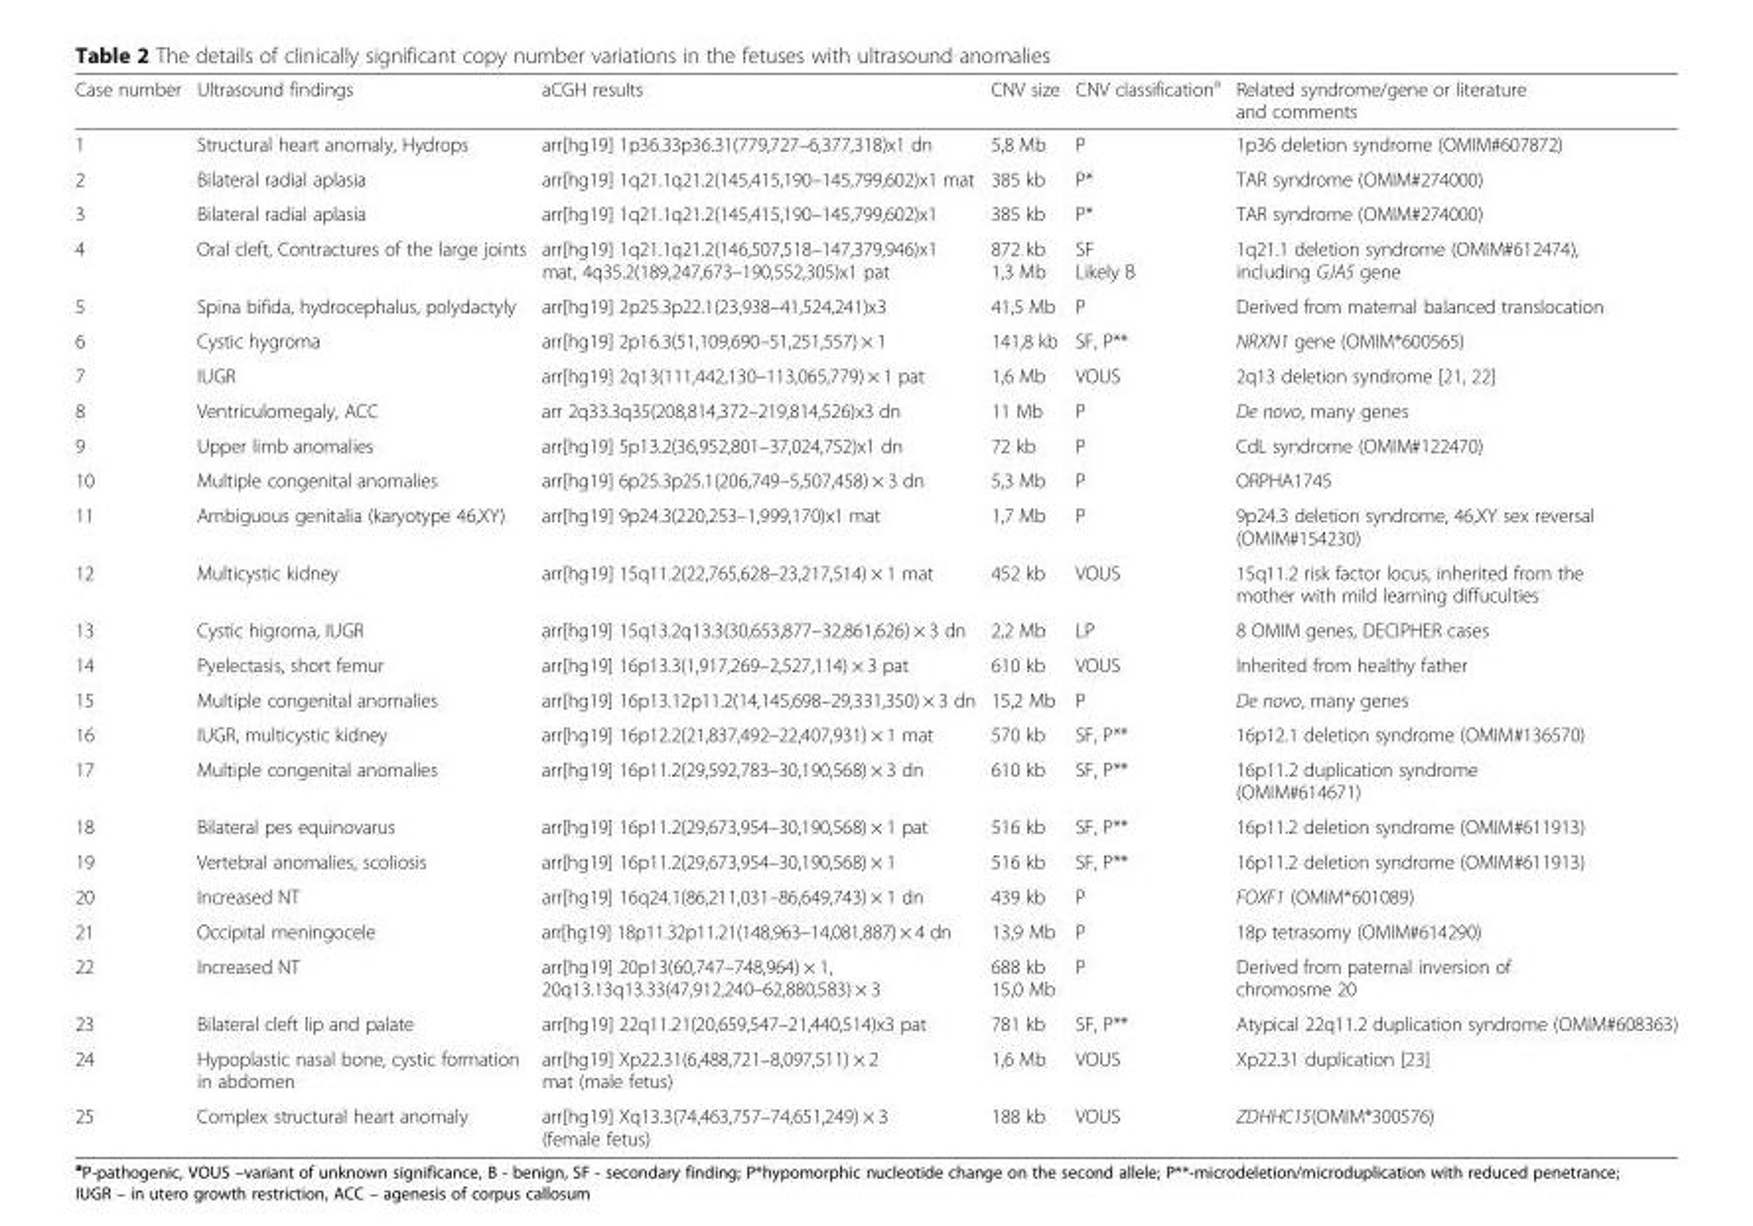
<table><thead><tr><td>Case number</td><td>Ultrasound findings</td><td>aCGH results</td><td>CNV size</td><td>CNV classification<sup>a</sup></td><td>Related syndrome/gene or literature and comments</td></tr></thead><tbody><tr><td>1</td><td>Structural heart anomaly, Hydrops</td><td>arr[hg19] 1p36.33p36.31(779,727–6,377,318)x1 dn</td><td>5,8 Mb</td><td>P</td><td>1p36 deletion syndrome (OMIM#607872)</td></tr><tr><td>2</td><td>Bilateral radial aplasia</td><td>arr[hg19] 1q21.1q21.2(145,415,190–145,799,602)x1 mat</td><td>385 kb</td><td>P*</td><td>TAR syndrome (OMIM#274000)</td></tr><tr><td>3</td><td>Bilateral radial aplasia</td><td>arr[hg19] 1q21.1q21.2(145,415,190–145,799,602)x1</td><td>385 kb</td><td>P*</td><td>TAR syndrome (OMIM#274000)</td></tr><tr><td>4</td><td>Oral cleft, Contractures of the large joints</td><td>arr[hg19] 1q21.1q21.2(146,507,518–147,379,946)x1 mat, 4q35.2(189,247,673–190,552,305)x1 pat</td><td>872 kb 1,3 Mb</td><td>SF Likely B</td><td>1q21.1 deletion syndrome (OMIM#612474), including GJA5 gene</td></tr><tr><td>5</td><td>Spina bifida, hydrocephalus, polydactyly</td><td>arr[hg19] 2p25.3p22.1(23,938–41,524,241)x3</td><td>41,5 Mb</td><td>P</td><td>Derived from maternal balanced translocation</td></tr><tr><td>6</td><td>Cystic hygroma</td><td>arr[hg19] 2p16.3(51,109,690–51,251,557) × 1</td><td>141,8 kb</td><td>SF, P**</td><td>NRXN1 gene (OMIM*600565)</td></tr><tr><td>7</td><td>IUGR</td><td>arr[hg19] 2q13(111,442,130–113,065,779) × 1 pat</td><td>1,6 Mb</td><td>VOUS</td><td>2q13 deletion syndrome [21, 22]</td></tr><tr><td>8</td><td>Ventriculomegaly, ACC</td><td>arr 2q33.3q35(208,814,372–219,814,526)x3 dn</td><td>11 Mb</td><td>P</td><td>De novo, many genes</td></tr><tr><td>9</td><td>Upper limb anomalies</td><td>arr[hg19] 5p13.2(36,952,801–37,024,752)x1 dn</td><td>72 kb</td><td>P</td><td>CdL syndrome (OMIM#122470)</td></tr><tr><td>10</td><td>Multiple congenital anomalies</td><td>arr[hg19] 6p25.3p25.1(206,749–5,507,458) × 3 dn</td><td>5,3 Mb</td><td>P</td><td>ORPHA1745</td></tr><tr><td>11</td><td>Ambiguous genitalia (karyotype 46,XY)</td><td>arr[hg19] 9p24.3(220,253–1,999,170)x1 mat</td><td>1,7 Mb</td><td>P</td><td>9p24.3 deletion syndrome, 46,XY sex reversal (OMIM#154230)</td></tr><tr><td>12</td><td>Multicystic kidney</td><td>arr[hg19] 15q11.2(22,765,628–23,217,514) × 1 mat</td><td>452 kb</td><td>VOUS</td><td>15q11.2 risk factor locus, inherited from the mother with mild learning diffuculties</td></tr><tr><td>13</td><td>Cystic higroma, IUGR</td><td>arr[hg19] 15q13.2q13.3(30,653,877–32,861,626) × 3 dn</td><td>2,2 Mb</td><td>LP</td><td>8 OMIM genes, DECIPHER cases</td></tr><tr><td>14</td><td>Pyelectasis, short femur</td><td>arr[hg19] 16p13.3(1,917,269–2,527,114) × 3 pat</td><td>610 kb</td><td>VOUS</td><td>Inherited from healthy father</td></tr><tr><td>15</td><td>Multiple congenital anomalies</td><td>arr[hg19] 16p13.12p11.2(14,145,698–29,331,350) × 3 dn</td><td>15,2 Mb</td><td>P</td><td>De novo, many genes</td></tr><tr><td>16</td><td>IUGR, multicystic kidney</td><td>arr[hg19] 16p12.2(21,837,492–22,407,931) × 1 mat</td><td>570 kb</td><td>SF, P**</td><td>16p12.1 deletion syndrome (OMIM#136570)</td></tr><tr><td>17</td><td>Multiple congenital anomalies</td><td>arr[hg19] 16p11.2(29,592,783–30,190,568) × 3 dn</td><td>610 kb</td><td>SF, P**</td><td>16p11.2 duplication syndrome (OMIM#614671)</td></tr><tr><td>18</td><td>Bilateral pes equinovarus</td><td>arr[hg19] 16p11.2(29,673,954–30,190,568) × 1 pat</td><td>516 kb</td><td>SF, P**</td><td>16p11.2 deletion syndrome (OMIM#611913)</td></tr><tr><td>19</td><td>Vertebral anomalies, scoliosis</td><td>arr[hg19] 16p11.2(29,673,954–30,190,568) × 1</td><td>516 kb</td><td>SF, P**</td><td>16p11.2 deletion syndrome (OMIM#611913)</td></tr><tr><td>20</td><td>Increased NT</td><td>arr[hg19] 16q24.1(86,211,031–86,649,743) × 1 dn</td><td>439 kb</td><td>P</td><td>FOXF1 (OMIM*601089)</td></tr><tr><td>21</td><td>Occipital meningocele</td><td>arr[hg19] 18p11.32p11.21(148,963–14,081,887) × 4 dn</td><td>13,9 Mb</td><td>P</td><td>18p tetrasomy (OMIM#614290)</td></tr><tr><td>22</td><td>Increased NT</td><td>arr[hg19] 20p13(60,747–748,964) × 1, 20q13.13q13.33(47,912,240–62,880,583) × 3</td><td>688 kb 15,0 Mb</td><td>P</td><td>Derived from paternal inversion of chromosme 20</td></tr><tr><td>23</td><td>Bilateral cleft lip and palate</td><td>arr[hg19] 22q11.21(20,659,547–21,440,514)x3 pat</td><td>781 kb</td><td>SF, P**</td><td>Atypical 22q11.2 duplication syndrome (OMIM#608363)</td></tr><tr><td>24</td><td>Hypoplastic nasal bone, cystic formation in abdomen</td><td>arr[hg19] Xp22.31(6,488,721–8,097,511) × 2 mat (male fetus)</td><td>1,6 Mb</td><td>VOUS</td><td>Xp22.31 duplication [23]</td></tr><tr><td>25</td><td>Complex structural heart anomaly</td><td>arr[hg19] Xq13.3(74,463,757–74,651,249) × 3 (female fetus)</td><td>188 kb</td><td>VOUS</td><td>ZDHHC15(OMIM*300576)</td></tr></tbody></table>